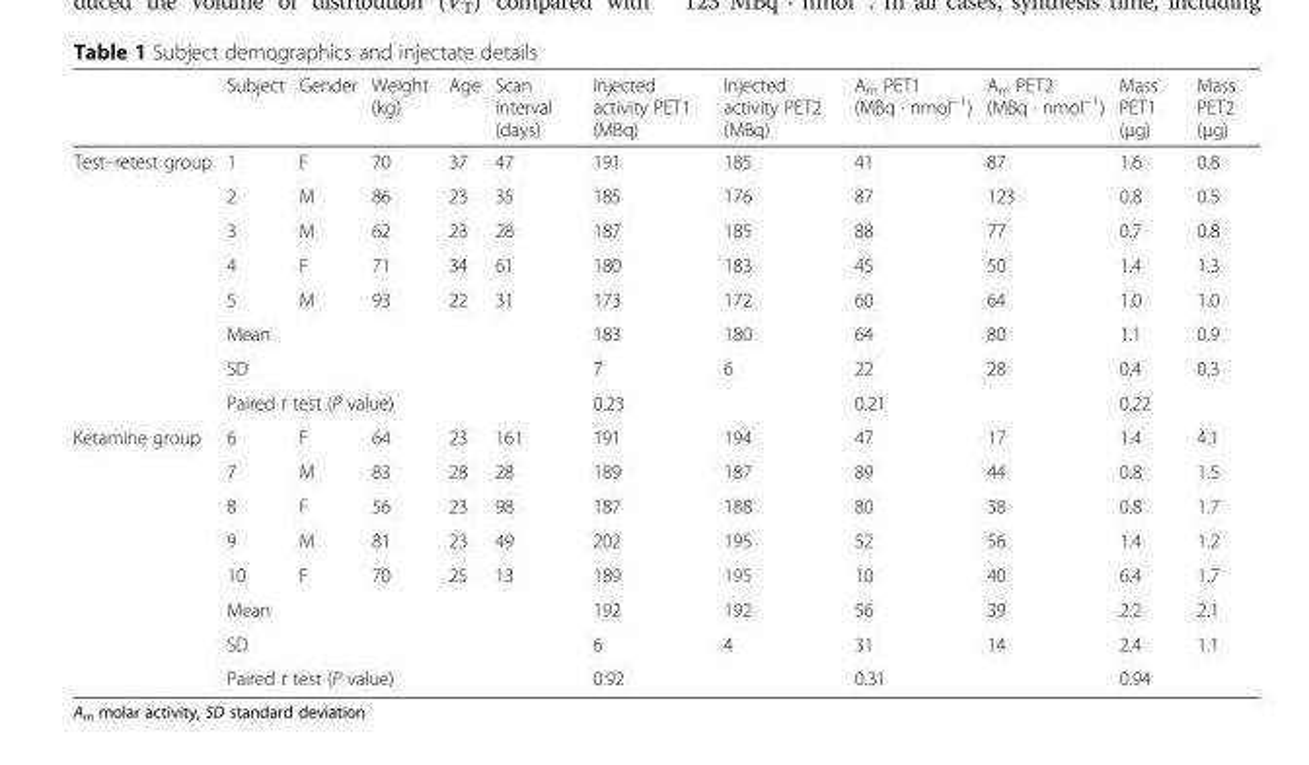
<table><thead><tr><td></td><td>Subject</td><td>Gender</td><td>Weight (kg)</td><td>Age</td><td>Scan interval (days)</td><td>Injected activity PET1 (MBq)</td><td>Injected activity PET2 (MBq)</td><td>A<sub>m</sub> PET1 (MBq · nmol<sup>−1</sup>)</td><td>A<sub>m</sub> PET2 (MBq · nmol<sup>−1</sup>)</td><td>Mass PET1 (μg)</td><td>Mass PET2 (μg)</td></tr></thead><tbody><tr><td rowspan="8">Test–retest group</td><td>1</td><td>F</td><td>70</td><td>37</td><td>47</td><td>191</td><td>185</td><td>41</td><td>87</td><td>1.6</td><td>0.8</td></tr><tr><td>2</td><td>M</td><td>86</td><td>23</td><td>35</td><td>185</td><td>176</td><td>87</td><td>123</td><td>0.8</td><td>0.5</td></tr><tr><td>3</td><td>M</td><td>62</td><td>23</td><td>28</td><td>187</td><td>185</td><td>88</td><td>77</td><td>0.7</td><td>0.8</td></tr><tr><td>4</td><td>F</td><td>71</td><td>34</td><td>61</td><td>180</td><td>183</td><td>45</td><td>50</td><td>1.4</td><td>1.3</td></tr><tr><td>5</td><td>M</td><td>93</td><td>22</td><td>31</td><td>173</td><td>172</td><td>60</td><td>64</td><td>1.0</td><td>1.0</td></tr><tr><td colspan="5">Mean</td><td>183</td><td>180</td><td>64</td><td>80</td><td>1.1</td><td>0.9</td></tr><tr><td colspan="5">SD</td><td>7</td><td>6</td><td>22</td><td>28</td><td>0.4</td><td>0.3</td></tr><tr><td colspan="5">Paired t test (P value)</td><td colspan="2">0.23</td><td colspan="2">0.21</td><td colspan="2">0.22</td></tr><tr><td rowspan="8">Ketamine group</td><td>6</td><td>F</td><td>64</td><td>23</td><td>161</td><td>191</td><td>194</td><td>47</td><td>17</td><td>1.4</td><td>4.1</td></tr><tr><td>7</td><td>M</td><td>83</td><td>28</td><td>28</td><td>189</td><td>187</td><td>89</td><td>44</td><td>0.8</td><td>1.5</td></tr><tr><td>8</td><td>F</td><td>56</td><td>23</td><td>98</td><td>187</td><td>188</td><td>80</td><td>38</td><td>0.8</td><td>1.7</td></tr><tr><td>9</td><td>M</td><td>81</td><td>23</td><td>49</td><td>202</td><td>195</td><td>52</td><td>56</td><td>1.4</td><td>1.2</td></tr><tr><td>10</td><td>F</td><td>70</td><td>25</td><td>13</td><td>189</td><td>195</td><td>10</td><td>40</td><td>6.4</td><td>1.7</td></tr><tr><td colspan="5">Mean</td><td>192</td><td>192</td><td>56</td><td>39</td><td>2.2</td><td>2.1</td></tr><tr><td colspan="5">SD</td><td>6</td><td>4</td><td>31</td><td>14</td><td>2.4</td><td>1.1</td></tr><tr><td colspan="5">Paired t test (P value)</td><td colspan="2">0.92</td><td colspan="2">0.31</td><td colspan="2">0.94</td></tr></tbody></table>